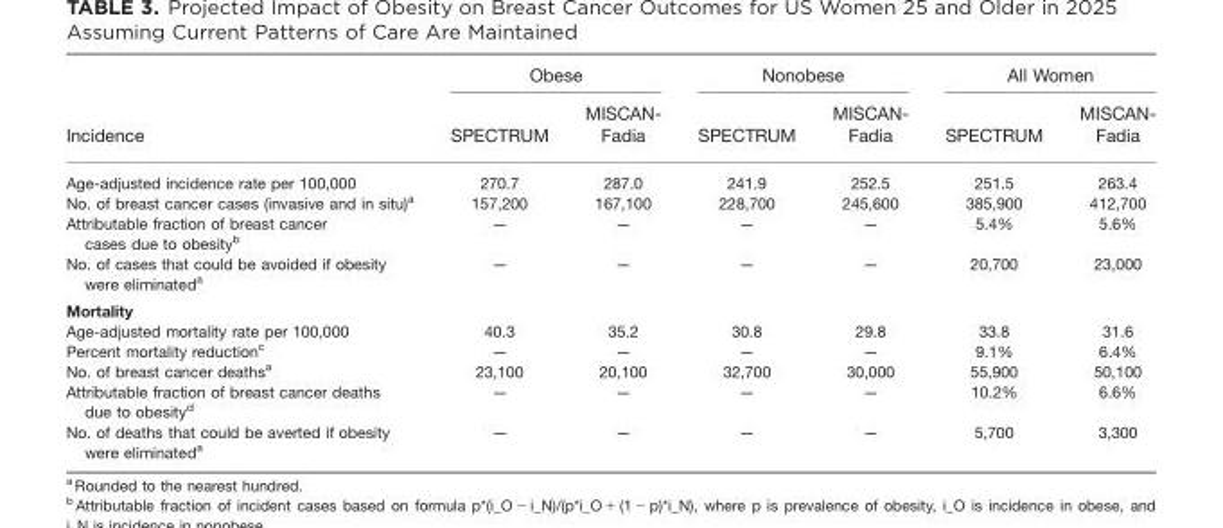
<table><thead><tr><td rowspan="2">Incidence</td><td colspan="2">Obese</td><td colspan="2">Nonobese</td><td colspan="2">All Women</td></tr><tr><td>SPECTRUM</td><td>MISCAN- Fadia</td><td>SPECTRUM</td><td>MISCAN- Fadia</td><td>SPECTRUM</td><td>MISCAN- Fadia</td></tr></thead><tbody><tr><td>Age-adjusted incidence rate per 100,000</td><td>270.7</td><td>287.0</td><td>241.9</td><td>252.5</td><td>251.5</td><td>263.4</td></tr><tr><td>No. of breast cancer cases (invasive and in situ)<sup>a</sup></td><td>157,200</td><td>167,100</td><td>228,700</td><td>245,600</td><td>385,900</td><td>412,700</td></tr><tr><td>Attributable fraction of breast cancer cases due to obesity<sup>b</sup></td><td>—</td><td>—</td><td>—</td><td>—</td><td>5.4%</td><td>5.6%</td></tr><tr><td>No. of cases that could be avoided if obesity were eliminated<sup>a</sup></td><td>—</td><td>—</td><td>—</td><td>—</td><td>20,700</td><td>23,000</td></tr><tr><td colspan="7">Mortality</td></tr><tr><td>Age-adjusted mortality rate per 100,000</td><td>40.3</td><td>35.2</td><td>30.8</td><td>29.8</td><td>33.8</td><td>31.6</td></tr><tr><td>Percent mortality reduction<sup>c</sup></td><td>—</td><td>—</td><td>—</td><td>—</td><td>9.1%</td><td>6.4%</td></tr><tr><td>No. of breast cancer deaths<sup>a</sup></td><td>23,100</td><td>20,100</td><td>32,700</td><td>30,000</td><td>55,900</td><td>50,100</td></tr><tr><td>Attributable fraction of breast cancer deaths due to obesity<sup>d</sup></td><td>—</td><td>—</td><td>—</td><td>—</td><td>10.2%</td><td>6.6%</td></tr><tr><td>No. of deaths that could be averted if obesity were eliminated<sup>a</sup></td><td>—</td><td>—</td><td>—</td><td>—</td><td>5,700</td><td>3,300</td></tr></tbody></table>